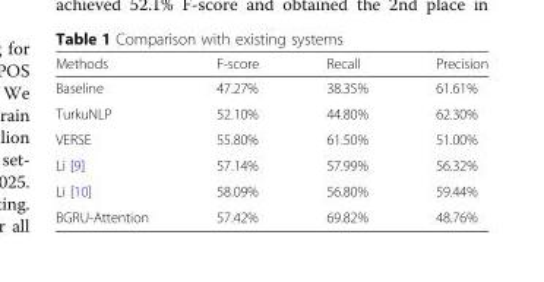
<table><thead><tr><td>Methods</td><td>F-score</td><td>Recall</td><td>Precision</td></tr></thead><tbody><tr><td>Baseline</td><td>47.27%</td><td>38.35%</td><td>61.61%</td></tr><tr><td>TurkuNLP</td><td>52.10%</td><td>44.80%</td><td>62.30%</td></tr><tr><td>VERSE</td><td>55.80%</td><td>61.50%</td><td>51.00%</td></tr><tr><td>Li [9]</td><td>57.14%</td><td>57.99%</td><td>56.32%</td></tr><tr><td>Li [10]</td><td>58.09%</td><td>56.80%</td><td>59.44%</td></tr><tr><td>BGRU-Attention</td><td>57.42%</td><td>69.82%</td><td>48.76%</td></tr></tbody></table>